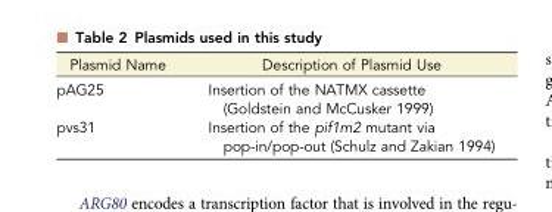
<table><thead><tr><td>Plasmid Name</td><td>Description of Plasmid Use</td></tr></thead><tbody><tr><td>pAG25</td><td>Insertion of the NATMX cassette (Goldstein and McCusker 1999)</td></tr><tr><td>pvs31</td><td>Insertion of the pif1m2 mutant via pop-in/pop-out (Schulz and Zakian 1994)</td></tr></tbody></table>